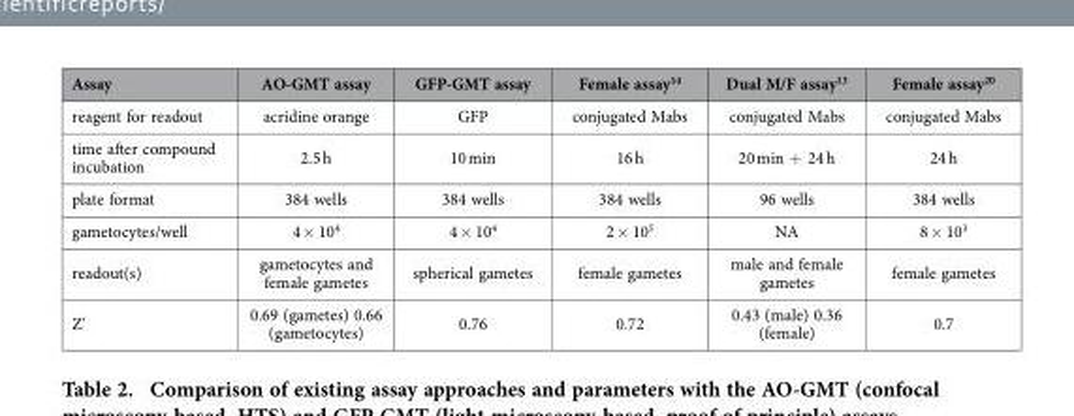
<table><thead><tr><td>Assay</td><td>AO-GMT assay</td><td>GFP-GMT assay</td><td>Female assay<sup>14</sup></td><td>Dual M/F assay<sup>13</sup></td><td>Female assay<sup>20</sup></td></tr></thead><tbody><tr><td>reagent for readout</td><td>acridine orange</td><td>GFP</td><td>conjugated Mabs</td><td>conjugated Mabs</td><td>conjugated Mabs</td></tr><tr><td>time after compound incubation</td><td>2.5 h</td><td>10 min</td><td>16 h</td><td>20 min + 24 h</td><td>24 h</td></tr><tr><td>plate format</td><td>384 wells</td><td>384 wells</td><td>384 wells</td><td>96 wells</td><td>384 wells</td></tr><tr><td>gametocytes/well</td><td>4 × 10<sup>4</sup></td><td>4 × 10<sup>4</sup></td><td>2 × 10<sup>5</sup></td><td>NA</td><td>8 × 10<sup>3</sup></td></tr><tr><td>readout(s)</td><td>gametocytes and female gametes</td><td>spherical gametes</td><td>female gametes</td><td>male and female gametes</td><td>female gametes</td></tr><tr><td>Z’</td><td>0.69 (gametes) 0.66 (gametocytes)</td><td>0.76</td><td>0.72</td><td>0.43 (male) 0.36 (female)</td><td>0.7</td></tr></tbody></table>